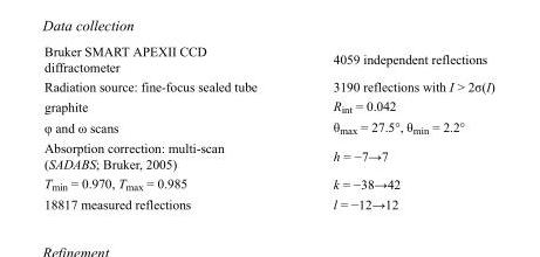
<table><tbody><tr><td>Bruker SMART APEXII CCD diffractometer</td><td>4059 independent reflections</td></tr><tr><td>Radiation source: fine-focus sealed tube</td><td>3190 reflections with I &gt; 2σ(I)</td></tr><tr><td>graphite</td><td>R<sub>int</sub> = 0.042</td></tr><tr><td>φ and ω scans</td><td>θ<sub>max</sub> = 27.5°, θ<sub>min</sub> = 2.2°</td></tr><tr><td>Absorption correction: multi-scan (SADABS; Bruker, 2005)</td><td>h = −7→7</td></tr><tr><td>T<sub>min</sub> = 0.970, T<sub>max</sub> = 0.985</td><td>k = −38→42</td></tr><tr><td>18817 measured reflections</td><td>l = −12→12</td></tr></tbody></table>